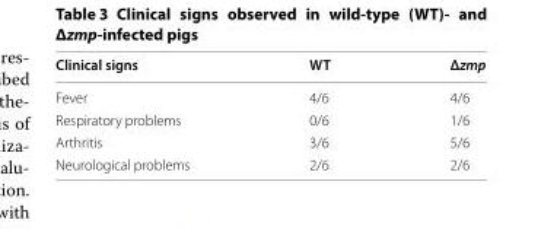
<table><thead><tr><td>Clinical signs</td><td>WT</td><td>Δzmp</td></tr></thead><tbody><tr><td>Fever</td><td>4/6</td><td>4/6</td></tr><tr><td>Respiratory problems</td><td>0/6</td><td>1/6</td></tr><tr><td>Arthritis</td><td>3/6</td><td>5/6</td></tr><tr><td>Neurological problems</td><td>2/6</td><td>2/6</td></tr></tbody></table>